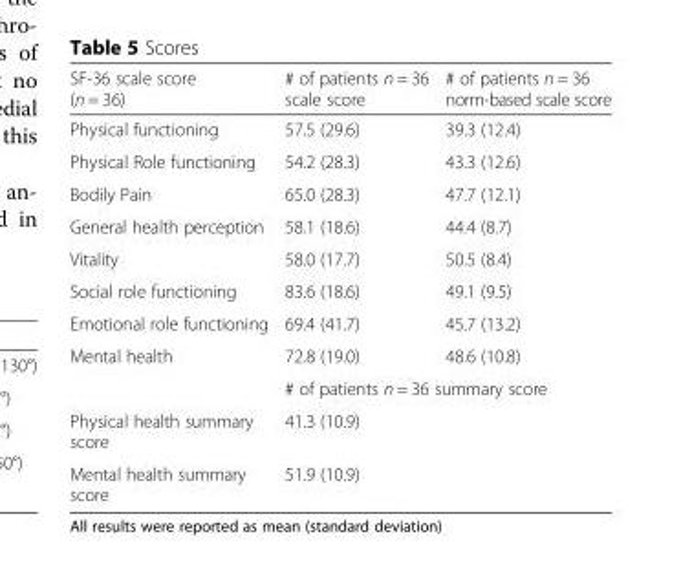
<table><thead><tr><td>SF-36 scale score (n = 36)</td><td># of patients n = 36 scale score</td><td># of patients n = 36 norm-based scale score</td></tr></thead><tbody><tr><td>Physical functioning</td><td>57.5 (29.6)</td><td>39.3 (12.4)</td></tr><tr><td>Physical Role functioning</td><td>54.2 (28.3)</td><td>43.3 (12.6)</td></tr><tr><td>Bodily Pain</td><td>65.0 (28.3)</td><td>47.7 (12.1)</td></tr><tr><td>General health perception</td><td>58.1 (18.6)</td><td>44.4 (8.7)</td></tr><tr><td>Vitality</td><td>58.0 (17.7)</td><td>50.5 (8.4)</td></tr><tr><td>Social role functioning</td><td>83.6 (18.6)</td><td>49.1 (9.5)</td></tr><tr><td>Emotional role functioning</td><td>69.4 (41.7)</td><td>45.7 (13.2)</td></tr><tr><td rowspan="2">Mental health</td><td>72.8 (19.0)</td><td>48.6 (10.8)</td></tr><tr><td colspan="2"># of patients n = 36 summary score</td></tr><tr><td>Physical health summary score</td><td colspan="2">41.3 (10.9)</td></tr><tr><td>Mental health summary score</td><td colspan="2">51.9 (10.9)</td></tr></tbody></table>